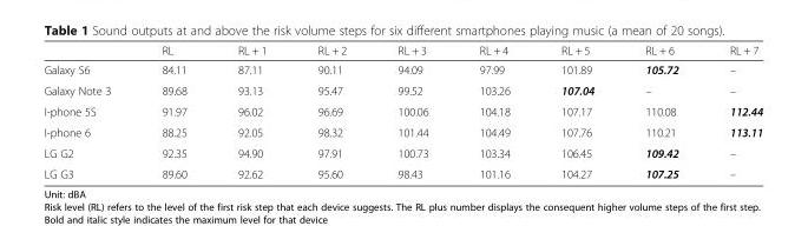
<table><thead><tr><td></td><td>RL</td><td>RL + 1</td><td>RL + 2</td><td>RL + 3</td><td>RL + 4</td><td>RL + 5</td><td>RL + 6</td><td>RL + 7</td></tr></thead><tbody><tr><td>Galaxy S6</td><td>84.11</td><td>87.11</td><td>90.11</td><td>94.09</td><td>97.99</td><td>101.89</td><td>105.72</td><td>–</td></tr><tr><td>Galaxy Note 3</td><td>89.68</td><td>93.13</td><td>95.47</td><td>99.52</td><td>103.26</td><td>107.04</td><td>–</td><td>–</td></tr><tr><td>I-phone 5S</td><td>91.97</td><td>96.02</td><td>96.69</td><td>100.06</td><td>104.18</td><td>107.17</td><td>110.08</td><td>112.44</td></tr><tr><td>I-phone 6</td><td>88.25</td><td>92.05</td><td>98.32</td><td>101.44</td><td>104.49</td><td>107.76</td><td>110.21</td><td>113.11</td></tr><tr><td>LG G2</td><td>92.35</td><td>94.90</td><td>97.91</td><td>100.73</td><td>103.34</td><td>106.45</td><td>109.42</td><td>–</td></tr><tr><td>LG G3</td><td>89.60</td><td>92.62</td><td>95.60</td><td>98.43</td><td>101.16</td><td>104.27</td><td>107.25</td><td>–</td></tr></tbody></table>